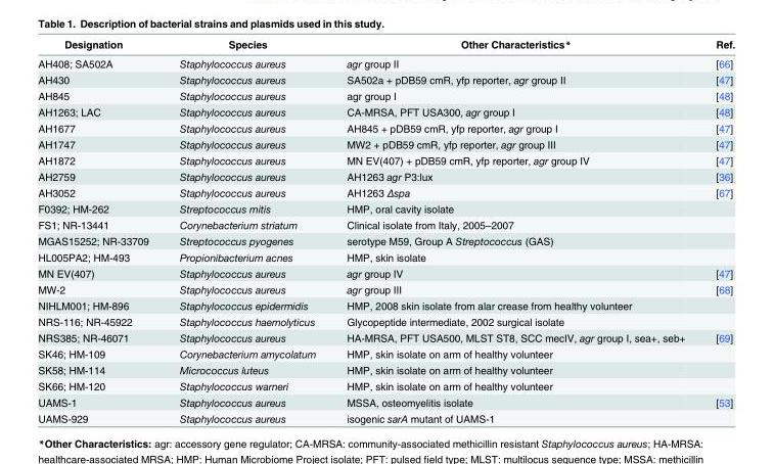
<table><thead><tr><td>Designation</td><td>Species</td><td>Other Characteristics*</td><td>Ref.</td></tr></thead><tbody><tr><td>AH408; SA502A</td><td>Staphylococcus aureus</td><td>agr group II</td><td>[66]</td></tr><tr><td>AH430</td><td>Staphylococcus aureus</td><td>SA502a + pDB59 cmR, yfp reporter, agr group II</td><td>[47]</td></tr><tr><td>AH845</td><td>Staphylococcus aureus</td><td>agr group I</td><td>[48]</td></tr><tr><td>AH1263; LAC</td><td>Staphylococcus aureus</td><td>CA-MRSA, PFT USA300, agr group I</td><td>[48]</td></tr><tr><td>AH1677</td><td>Staphylococcus aureus</td><td>AH845 + pDB59 cmR, yfp reporter, agr group I</td><td>[47]</td></tr><tr><td>AH1747</td><td>Staphylococcus aureus</td><td>MW2 + pDB59 cmR, yfp reporter, agr group III</td><td>[47]</td></tr><tr><td>AH1872</td><td>Staphylococcus aureus</td><td>MN EV(407) + pDB59 cmR, yfp reporter, agr group IV</td><td>[47]</td></tr><tr><td>AH2759</td><td>Staphylococcus aureus</td><td>AH1263 agr P3:lux</td><td>[36]</td></tr><tr><td>AH3052</td><td>Staphylococcus aureus</td><td>AH1263 Δspa</td><td>[67]</td></tr><tr><td>F0392; HM-262</td><td>Streptococcus mitis</td><td>HMP, oral cavity isolate</td><td></td></tr><tr><td>FS1; NR-13441</td><td>Corynebacterium striatum</td><td>Clinical isolate from Italy, 2005–2007</td><td></td></tr><tr><td>MGAS15252; NR-33709</td><td>Streptococcus pyogenes</td><td>serotype M59, Group A Streptococcus (GAS)</td><td></td></tr><tr><td>HL005PA2; HM-493</td><td>Propionibacterium acnes</td><td>HMP, skin isolate</td><td></td></tr><tr><td>MN EV(407)</td><td>Staphylococcus aureus</td><td>agr group IV</td><td>[47]</td></tr><tr><td>MW-2</td><td>Staphylococcus aureus</td><td>agr group III</td><td>[68]</td></tr><tr><td>NIHLM001; HM-896</td><td>Staphylococcus epidermidis</td><td>HMP, 2008 skin isolate from alar crease from healthy volunteer</td><td></td></tr><tr><td>NRS-116; NR-45922</td><td>Staphylococcus haemolyticus</td><td>Glycopeptide intermediate, 2002 surgical isolate</td><td></td></tr><tr><td>NRS385; NR-46071</td><td>Staphylococcus aureus</td><td>HA-MRSA, PFT USA500, MLST ST8, SCC mecIV, agr group I, sea+, seb+</td><td>[69]</td></tr><tr><td>SK46; HM-109</td><td>Corynebacterium amycolatum</td><td>HMP, skin isolate on arm of healthy volunteer</td><td></td></tr><tr><td>SK58; HM-114</td><td>Micrococcus luteus</td><td>HMP, skin isolate on arm of healthy volunteer</td><td></td></tr><tr><td>SK66; HM-120</td><td>Staphylococcus warneri</td><td>HMP, skin isolate on arm of healthy volunteer</td><td></td></tr><tr><td>UAMS-1</td><td>Staphylococcus aureus</td><td>MSSA, osteomyelitis isolate</td><td>[53]</td></tr><tr><td>UAMS-929</td><td>Staphylococcus aureus</td><td>isogenic sarA mutant of UAMS-1</td><td></td></tr></tbody></table>